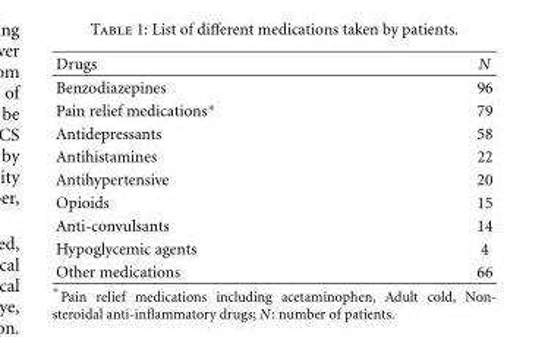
<table><thead><tr><td>Drugs</td><td>N</td></tr></thead><tbody><tr><td>Benzodiazepines</td><td>96</td></tr><tr><td>Pain relief medications∗</td><td>79</td></tr><tr><td>Antidepressants</td><td>58</td></tr><tr><td>Antihistamines</td><td>22</td></tr><tr><td>Antihypertensive</td><td>20</td></tr><tr><td>Opioids</td><td>15</td></tr><tr><td>Anti-convulsants</td><td>14</td></tr><tr><td>Hypoglycemic agents</td><td>4</td></tr><tr><td>Other medications</td><td>66</td></tr></tbody></table>